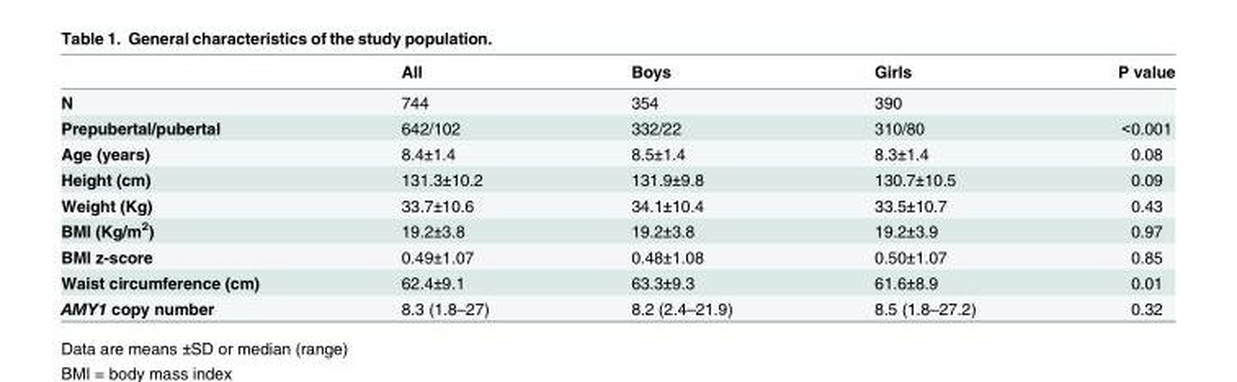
<table><thead><tr><td></td><td>All</td><td>Boys</td><td>Girls</td><td>P value</td></tr></thead><tbody><tr><td>N</td><td>744</td><td>354</td><td>390</td><td></td></tr><tr><td>Prepubertal/pubertal</td><td>642/102</td><td>332/22</td><td>310/80</td><td>&lt;0.001</td></tr><tr><td>Age (years)</td><td>8.4±1.4</td><td>8.5±1.4</td><td>8.3±1.4</td><td>0.08</td></tr><tr><td>Height (cm)</td><td>131.3±10.2</td><td>131.9±9.8</td><td>130.7±10.5</td><td>0.09</td></tr><tr><td>Weight (Kg)</td><td>33.7±10.6</td><td>34.1±10.4</td><td>33.5±10.7</td><td>0.43</td></tr><tr><td>BMI (Kg/m<sup>2</sup>)</td><td>19.2±3.8</td><td>19.2±3.8</td><td>19.2±3.9</td><td>0.97</td></tr><tr><td>BMI z-score</td><td>0.49±1.07</td><td>0.48±1.08</td><td>0.50±1.07</td><td>0.85</td></tr><tr><td>Waist circumference (cm)</td><td>62.4±9.1</td><td>63.3±9.3</td><td>61.6±8.9</td><td>0.01</td></tr><tr><td>AMY1 copy number</td><td>8.3 (1.8–27)</td><td>8.2 (2.4–21.9)</td><td>8.5 (1.8–27.2)</td><td>0.32</td></tr></tbody></table>